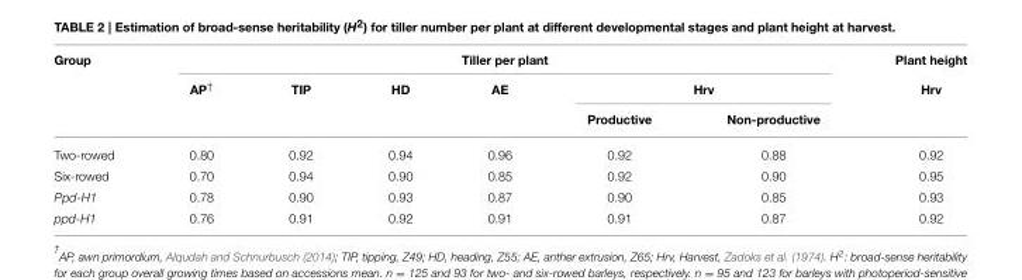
<table><thead><tr><td rowspan="3">Group</td><td colspan="6">Tiller per plant</td><td rowspan="3">Plant height Hrv</td></tr><tr><td rowspan="2">AP<sup>†</sup></td><td rowspan="2">TIP</td><td rowspan="2">HD</td><td rowspan="2">AE</td><td colspan="2">Hrv</td></tr><tr><td>Productive</td><td>Non-productive</td></tr></thead><tbody><tr><td>Two-rowed</td><td>0.80</td><td>0.92</td><td>0.94</td><td>0.96</td><td>0.92</td><td>0.88</td><td>0.92</td></tr><tr><td>Six-rowed</td><td>0.70</td><td>0.94</td><td>0.90</td><td>0.85</td><td>0.92</td><td>0.90</td><td>0.95</td></tr><tr><td>Ppd-H1</td><td>0.78</td><td>0.90</td><td>0.93</td><td>0.87</td><td>0.90</td><td>0.85</td><td>0.93</td></tr><tr><td>ppd-H1</td><td>0.76</td><td>0.91</td><td>0.92</td><td>0.91</td><td>0.91</td><td>0.87</td><td>0.92</td></tr></tbody></table>